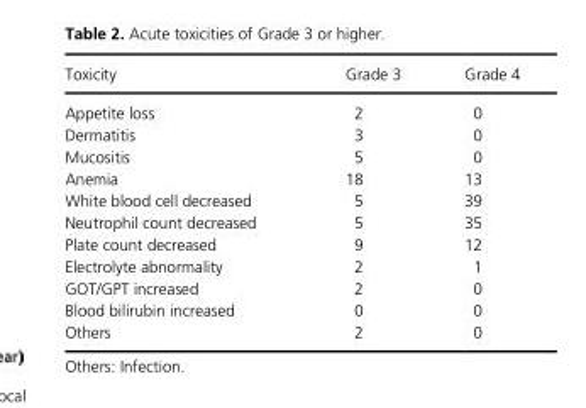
<table><thead><tr><td>Toxicity</td><td>Grade 3</td><td>Grade 4</td></tr></thead><tbody><tr><td>Appetite loss</td><td>2</td><td>0</td></tr><tr><td>Dermatitis</td><td>3</td><td>0</td></tr><tr><td>Mucositis</td><td>5</td><td>0</td></tr><tr><td>Anemia</td><td>18</td><td>13</td></tr><tr><td>White blood cell decreased</td><td>5</td><td>39</td></tr><tr><td>Neutrophil count decreased</td><td>5</td><td>35</td></tr><tr><td>Plate count decreased</td><td>9</td><td>12</td></tr><tr><td>Electrolyte abnormality</td><td>2</td><td>1</td></tr><tr><td>GOT/GPT increased</td><td>2</td><td>0</td></tr><tr><td>Blood bilirubin increased</td><td>0</td><td>0</td></tr><tr><td>Others</td><td>2</td><td>0</td></tr></tbody></table>